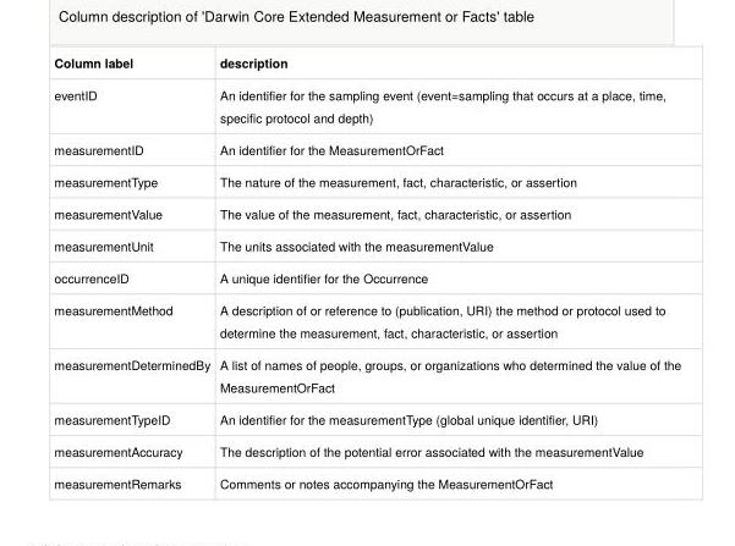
<table><tbody><tr><td>Column label</td><td>description</td></tr><tr><td>eventID</td><td>An identifier for the sampling event (event=sampling that occurs at a place, time, specific protocol and depth)</td></tr><tr><td>measurementID</td><td>An identifier for the MeasurementOrFact</td></tr><tr><td>measurementType</td><td>The nature of the measurement, fact, characteristic, or assertion</td></tr><tr><td>measurementValue</td><td>The value of the measurement, fact, characteristic, or assertion</td></tr><tr><td>measurementUnit</td><td>The units associated with the measurementValue</td></tr><tr><td>occurrenceID</td><td>A unique identifier for the Occurrence</td></tr><tr><td>measurementMethod</td><td>A description of or reference to (publication, URI) the method or protocol used to determine the measurement, fact, characteristic, or assertion</td></tr><tr><td>measurementDeterminedBy</td><td>A list of names of people, groups, or organizations who determined the value of the MeasurementOrFact</td></tr><tr><td>measurementTypeID</td><td>An identifier for the measurementType (global unique identifier, URI)</td></tr><tr><td>measurementAccuracy</td><td>The description of the potential error associated with the measurementValue</td></tr><tr><td>measurementRemarks</td><td>Comments or notes accompanying the MeasurementOrFact</td></tr></tbody></table>